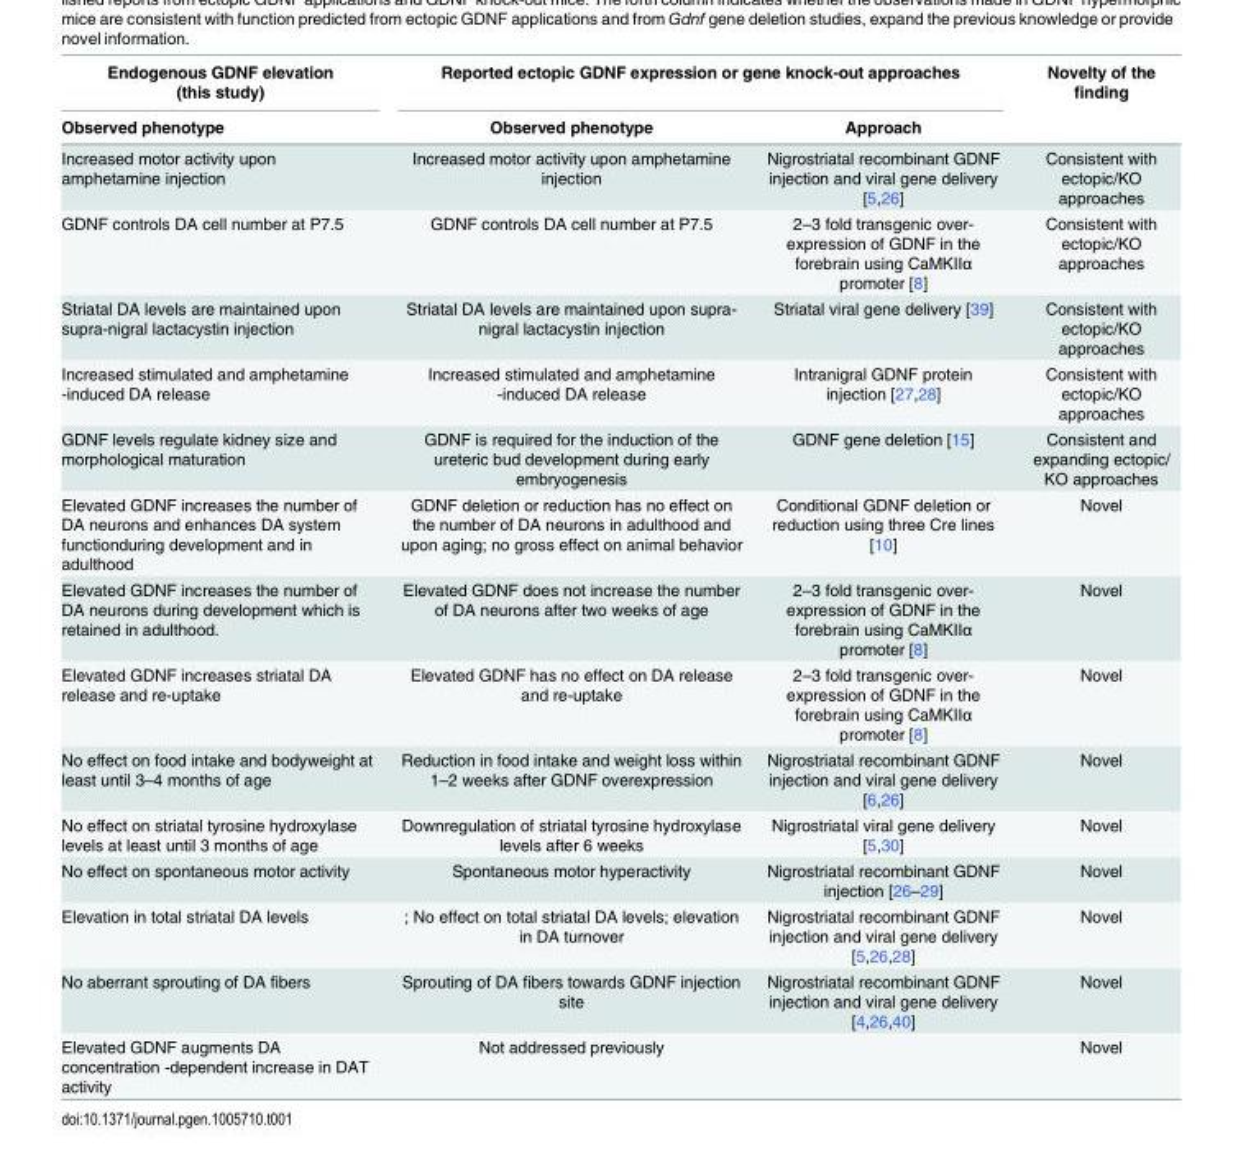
<table><thead><tr><td rowspan="2">Endogenous GDNF elevation (this study) Observed phenotype</td><td colspan="2">Reported ectopic GDNF expression or gene knock-out approaches</td><td rowspan="2">Novelty of the finding</td></tr><tr><td>Observed phenotype</td><td>Approach</td></tr></thead><tbody><tr><td>Increased motor activity upon amphetamine injection</td><td>Increased motor activity upon amphetamine injection</td><td>Nigrostriatal recombinant GDNF injection and viral gene delivery [5,26]</td><td>Consistent with ectopic/KO approaches</td></tr><tr><td>GDNF controls DA cell number at P7.5</td><td>GDNF controls DA cell number at P7.5</td><td>2–3 fold transgenic over- expression of GDNF in the forebrain using CaMKIIα promoter [8]</td><td>Consistent with ectopic/KO approaches</td></tr><tr><td>Striatal DA levels are maintained upon supra-nigral lactacystin injection</td><td>Striatal DA levels are maintained upon supra- nigral lactacystin injection</td><td>Striatal viral gene delivery [39]</td><td>Consistent with ectopic/KO approaches</td></tr><tr><td>Increased stimulated and amphetamine -induced DA release</td><td>Increased stimulated and amphetamine -induced DA release</td><td>Intranigral GDNF protein injection [27,28]</td><td>Consistent with ectopic/KO approaches</td></tr><tr><td>GDNF levels regulate kidney size and morphological maturation</td><td>GDNF is required for the induction of the ureteric bud development during early embryogenesis</td><td>GDNF gene deletion [15]</td><td>Consistent and expanding ectopic/ KO approaches</td></tr><tr><td>Elevated GDNF increases the number of DA neurons and enhances DA system functionduring development and in adulthood</td><td>GDNF deletion or reduction has no effect on the number of DA neurons in adulthood and upon aging; no gross effect on animal behavior</td><td>Conditional GDNF deletion or reduction using three Cre lines [10]</td><td>Novel</td></tr><tr><td>Elevated GDNF increases the number of DA neurons during development which is retained in adulthood.</td><td>Elevated GDNF does not increase the number of DA neurons after two weeks of age</td><td>2–3 fold transgenic over- expression of GDNF in the forebrain using CaMKIIα promoter [8]</td><td>Novel</td></tr><tr><td>Elevated GDNF increases striatal DA release and re-uptake</td><td>Elevated GDNF has no effect on DA release and re-uptake</td><td>2–3 fold transgenic over- expression of GDNF in the forebrain using CaMKIIα promoter [8]</td><td>Novel</td></tr><tr><td>No effect on food intake and bodyweight at least until 3–4 months of age</td><td>Reduction in food intake and weight loss within 1–2 weeks after GDNF overexpression</td><td>Nigrostriatal recombinant GDNF injection and viral gene delivery [6,26]</td><td>Novel</td></tr><tr><td>No effect on striatal tyrosine hydroxylase levels at least until 3 months of age</td><td>Downregulation of striatal tyrosine hydroxylase levels after 6 weeks</td><td>Nigrostriatal viral gene delivery [5,30]</td><td>Novel</td></tr><tr><td>No effect on spontaneous motor activity</td><td>Spontaneous motor hyperactivity</td><td>Nigrostriatal recombinant GDNF injection [26–29]</td><td>Novel</td></tr><tr><td>Elevation in total striatal DA levels</td><td>; No effect on total striatal DA levels; elevation in DA turnover</td><td>Nigrostriatal recombinant GDNF injection and viral gene delivery [5,26,28]</td><td>Novel</td></tr><tr><td>No aberrant sprouting of DA fibers</td><td>Sprouting of DA fibers towards GDNF injection site</td><td>Nigrostriatal recombinant GDNF injection and viral gene delivery [4,26,40]</td><td>Novel</td></tr><tr><td>Elevated GDNF augments DA concentration -dependent increase in DAT activity</td><td>Not addressed previously</td><td></td><td>Novel</td></tr></tbody></table>